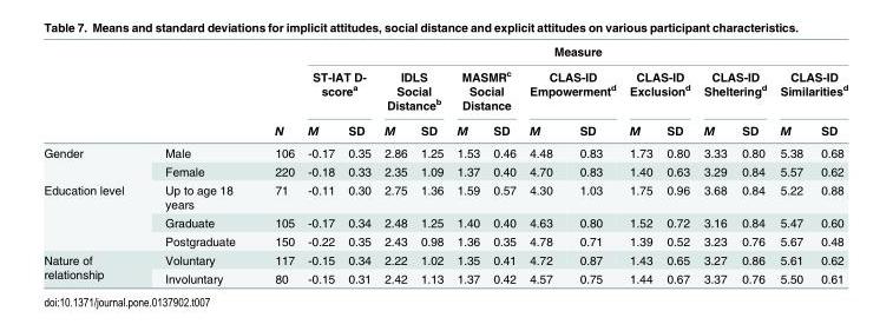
<table><thead><tr><td rowspan="3"></td><td rowspan="3"></td><td rowspan="3">N</td><td colspan="14">Measure</td></tr><tr><td colspan="2">ST-IAT D- score<sup>a</sup></td><td colspan="2">IDLS Social Distance<sup>b</sup></td><td colspan="2">MASMR<sup>c</sup> Social Distance</td><td colspan="2">CLAS-ID Empowerment<sup>d</sup></td><td colspan="2">CLAS-ID Exclusion<sup>d</sup></td><td colspan="2">CLAS-ID Sheltering<sup>d</sup></td><td colspan="2">CLAS-ID Similarities<sup>d</sup></td></tr><tr><td>M</td><td>SD</td><td>M</td><td>SD</td><td>M</td><td>SD</td><td>M</td><td>SD</td><td>M</td><td>SD</td><td>M</td><td>SD</td><td>M</td><td>SD</td></tr></thead><tbody><tr><td rowspan="2">Gender</td><td>Male</td><td>106</td><td>-0.17</td><td>0.35</td><td>2.86</td><td>1.25</td><td>1.53</td><td>0.46</td><td>4.48</td><td>0.83</td><td>1.73</td><td>0.80</td><td>3.33</td><td>0.80</td><td>5.38</td><td>0.68</td></tr><tr><td>Female</td><td>220</td><td>-0.18</td><td>0.33</td><td>2.35</td><td>1.09</td><td>1.37</td><td>0.40</td><td>4.70</td><td>0.83</td><td>1.40</td><td>0.63</td><td>3.29</td><td>0.84</td><td>5.57</td><td>0.62</td></tr><tr><td rowspan="3">Education level</td><td>Up to age 18 years</td><td>71</td><td>-0.11</td><td>0.30</td><td>2.75</td><td>1.36</td><td>1.59</td><td>0.57</td><td>4.30</td><td>1.03</td><td>1.75</td><td>0.96</td><td>3.68</td><td>0.84</td><td>5.22</td><td>0.88</td></tr><tr><td>Graduate</td><td>105</td><td>-0.17</td><td>0.34</td><td>2.48</td><td>1.25</td><td>1.40</td><td>0.40</td><td>4.63</td><td>0.80</td><td>1.52</td><td>0.72</td><td>3.16</td><td>0.84</td><td>5.47</td><td>0.60</td></tr><tr><td>Postgraduate</td><td>150</td><td>-0.22</td><td>0.35</td><td>2.43</td><td>0.98</td><td>1.36</td><td>0.35</td><td>4.78</td><td>0.71</td><td>1.39</td><td>0.52</td><td>3.23</td><td>0.76</td><td>5.67</td><td>0.48</td></tr><tr><td rowspan="2">Nature of relationship</td><td>Voluntary</td><td>117</td><td>-0.15</td><td>0.34</td><td>2.22</td><td>1.02</td><td>1.35</td><td>0.41</td><td>4.72</td><td>0.87</td><td>1.43</td><td>0.65</td><td>3.27</td><td>0.86</td><td>5.61</td><td>0.62</td></tr><tr><td>Involuntary</td><td>80</td><td>-0.15</td><td>0.31</td><td>2.42</td><td>1.13</td><td>1.37</td><td>0.42</td><td>4.57</td><td>0.75</td><td>1.44</td><td>0.67</td><td>3.37</td><td>0.76</td><td>5.50</td><td>0.61</td></tr></tbody></table>